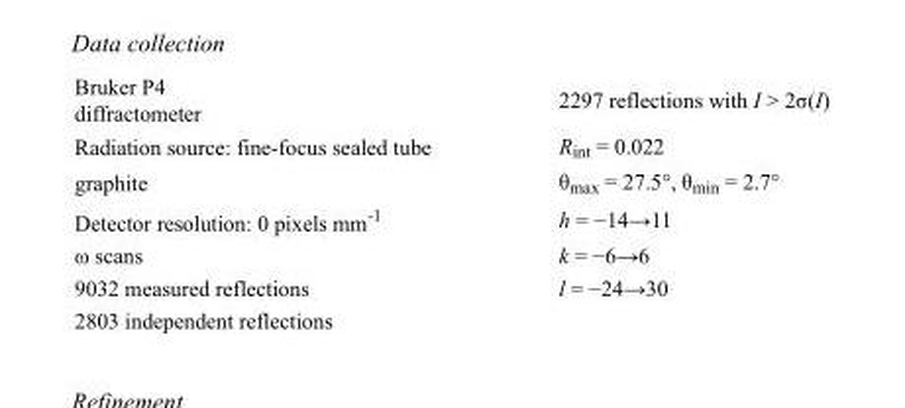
<table><tbody><tr><td>Bruker P4 diffractometer</td><td>2297 reflections with I &gt; 2σ(I)</td></tr><tr><td>Radiation source: fine-focus sealed tube</td><td>R<sub>int</sub> = 0.022</td></tr><tr><td>graphite</td><td>θ<sub>max</sub> = 27.5°, θ<sub>min</sub> = 2.7°</td></tr><tr><td>Detector resolution: 0 pixels mm<sup>-1</sup></td><td>h = −14→11</td></tr><tr><td>ω scans</td><td>k = −6→6</td></tr><tr><td>9032 measured reflections</td><td>l = −24→30</td></tr><tr><td>2803 independent reflections</td><td></td></tr></tbody></table>